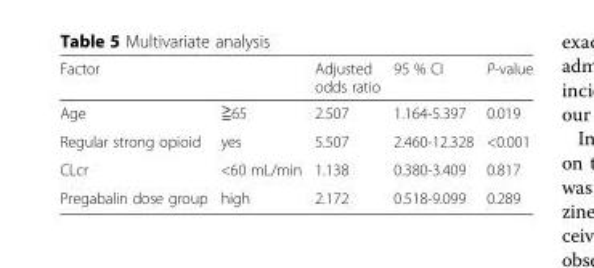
<table><thead><tr><td colspan="2">Factor</td><td rowspan="2">Adjusted odds ratio 2.507</td><td rowspan="2">95 % CI 1.164-5.397</td><td rowspan="2">P-value 0.019</td></tr><tr><td>Age</td><td>≧65</td></tr></thead><tbody><tr><td>Regular strong opioid</td><td>yes</td><td>5.507</td><td>2.460-12.328</td><td>&lt;0.001</td></tr><tr><td>CLcr</td><td>&lt;60 mL/min</td><td>1.138</td><td>0.380-3.409</td><td>0.817</td></tr><tr><td>Pregabalin dose group</td><td>high</td><td>2.172</td><td>0.518-9.099</td><td>0.289</td></tr></tbody></table>